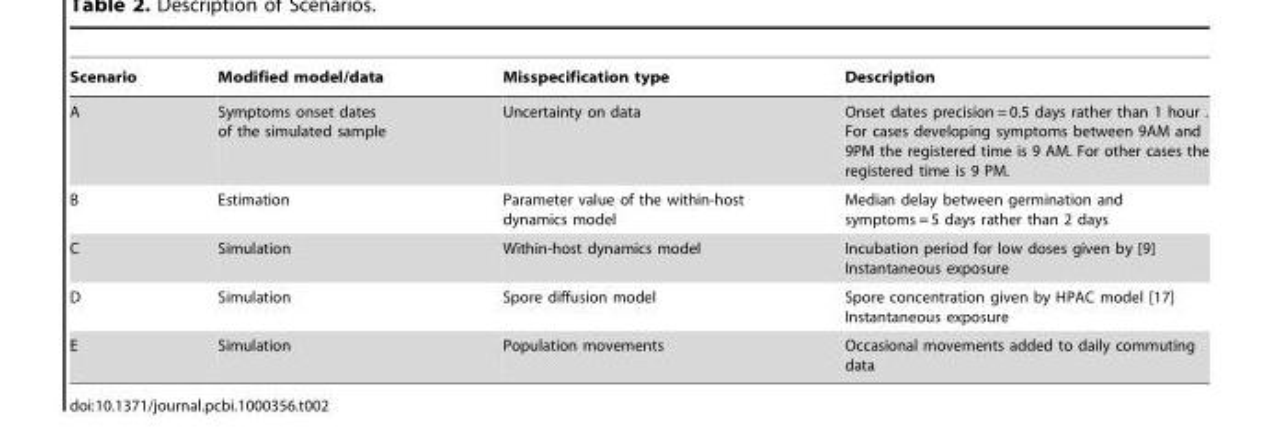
<table><thead><tr><td>Scenario</td><td>Modified model/data</td><td>Misspecification type</td><td>Description</td></tr></thead><tbody><tr><td>A</td><td>Symptoms onset dates of the simulated sample</td><td>Uncertainty on data</td><td>Onset dates precision = 0.5 days rather than 1 hour . For cases developing symptoms between 9AM and 9PM the registered time is 9 AM. For other cases the registered time is 9 PM.</td></tr><tr><td>B</td><td>Estimation</td><td>Parameter value of the within-host dynamics model</td><td>Median delay between germination and symptoms = 5 days rather than 2 days</td></tr><tr><td>C</td><td>Simulation</td><td>Within-host dynamics model</td><td>Incubation period for low doses given by [9] Instantaneous exposure</td></tr><tr><td>D</td><td>Simulation</td><td>Spore diffusion model</td><td>Spore concentration given by HPAC model [17] Instantaneous exposure</td></tr><tr><td>E</td><td>Simulation</td><td>Population movements</td><td>Occasional movements added to daily commuting data</td></tr></tbody></table>